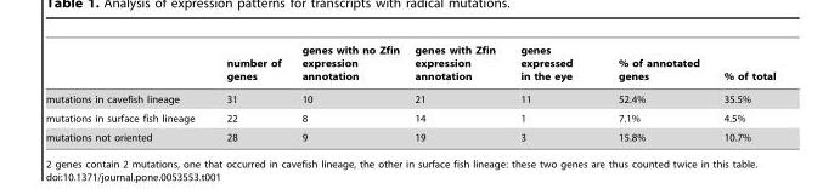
<table><thead><tr><td></td><td>number of genes</td><td>genes with no Zfin expression annotation</td><td>genes with Zfin expression annotation</td><td>genes expressed in the eye</td><td>% of annotated genes</td><td>% of total</td></tr></thead><tbody><tr><td>mutations in cavefish lineage</td><td>31</td><td>10</td><td>21</td><td>11</td><td>52.4%</td><td>35.5%</td></tr><tr><td>mutations in surface fish lineage</td><td>22</td><td>8</td><td>14</td><td>1</td><td>7.1%</td><td>4.5%</td></tr><tr><td>mutations not oriented</td><td>28</td><td>9</td><td>19</td><td>3</td><td>15.8%</td><td>10.7%</td></tr></tbody></table>